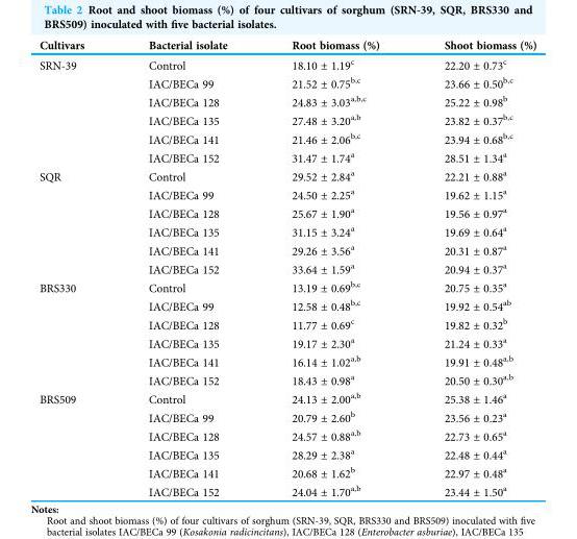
<table><thead><tr><td>Cultivars</td><td>Bacterial isolate</td><td>Root biomass (%)</td><td>Shoot biomass (%)</td></tr></thead><tbody><tr><td rowspan="6">SRN-39</td><td>Control</td><td>18.10 ± 1.19<sup>c</sup></td><td>22.20 ± 0.73<sup>c</sup></td></tr><tr><td>IAC/BECa 99</td><td>21.52 ± 0.75<sup>b,c</sup></td><td>23.66 ± 0.50<sup>b,c</sup></td></tr><tr><td>IAC/BECa 128</td><td>24.83 ± 3.03<sup>a,b,c</sup></td><td>25.22 ± 0.98<sup>b</sup></td></tr><tr><td>IAC/BECa 135</td><td>27.48 ± 3.20<sup>a,b</sup></td><td>23.82 ± 0.37<sup>b,c</sup></td></tr><tr><td>IAC/BECa 141</td><td>21.46 ± 2.06<sup>b,c</sup></td><td>23.94 ± 0.68<sup>b,c</sup></td></tr><tr><td>IAC/BECa 152</td><td>31.47 ± 1.74<sup>a</sup></td><td>28.51 ± 1.34<sup>a</sup></td></tr><tr><td rowspan="6">SQR</td><td>Control</td><td>29.52 ± 2.84<sup>a</sup></td><td>22.21 ± 0.88<sup>a</sup></td></tr><tr><td>IAC/BECa 99</td><td>24.50 ± 2.25<sup>a</sup></td><td>19.62 ± 1.15<sup>a</sup></td></tr><tr><td>IAC/BECa 128</td><td>25.67 ± 1.90<sup>a</sup></td><td>19.56 ± 0.97<sup>a</sup></td></tr><tr><td>IAC/BECa 135</td><td>31.15 ± 3.24<sup>a</sup></td><td>19.69 ± 0.64<sup>a</sup></td></tr><tr><td>IAC/BECa 141</td><td>29.26 ± 3.56<sup>a</sup></td><td>20.31 ± 0.87<sup>a</sup></td></tr><tr><td>IAC/BECa 152</td><td>33.64 ± 1.59<sup>a</sup></td><td>20.94 ± 0.37<sup>a</sup></td></tr><tr><td rowspan="6">BRS330</td><td>Control</td><td>13.19 ± 0.69<sup>b,c</sup></td><td>20.75 ± 0.35<sup>a</sup></td></tr><tr><td>IAC/BECa 99</td><td>12.58 ± 0.48<sup>b,c</sup></td><td>19.92 ± 0.54<sup>ab</sup></td></tr><tr><td>IAC/BECa 128</td><td>11.77 ± 0.69<sup>c</sup></td><td>19.82 ± 0.32<sup>b</sup></td></tr><tr><td>IAC/BECa 135</td><td>19.17 ± 2.30<sup>a</sup></td><td>21.24 ± 0.33<sup>a</sup></td></tr><tr><td>IAC/BECa 141</td><td>16.14 ± 1.02<sup>a,b</sup></td><td>19.91 ± 0.48<sup>a,b</sup></td></tr><tr><td>IAC/BECa 152</td><td>18.43 ± 0.98<sup>a</sup></td><td>20.50 ± 0.30<sup>a,b</sup></td></tr><tr><td rowspan="6">BRS509</td><td>Control</td><td>24.13 ± 2.00<sup>a,b</sup></td><td>25.38 ± 1.46<sup>a</sup></td></tr><tr><td>IAC/BECa 99</td><td>20.79 ± 2.60<sup>b</sup></td><td>23.56 ± 0.23<sup>a</sup></td></tr><tr><td>IAC/BECa 128</td><td>24.57 ± 0.88<sup>a,b</sup></td><td>22.73 ± 0.65<sup>a</sup></td></tr><tr><td>IAC/BECa 135</td><td>28.29 ± 2.38<sup>a</sup></td><td>22.48 ± 0.44<sup>a</sup></td></tr><tr><td>IAC/BECa 141</td><td>20.68 ± 1.62<sup>b</sup></td><td>22.97 ± 0.48<sup>a</sup></td></tr><tr><td>IAC/BECa 152</td><td>24.04 ± 1.70<sup>a,b</sup></td><td>23.44 ± 1.50<sup>a</sup></td></tr></tbody></table>